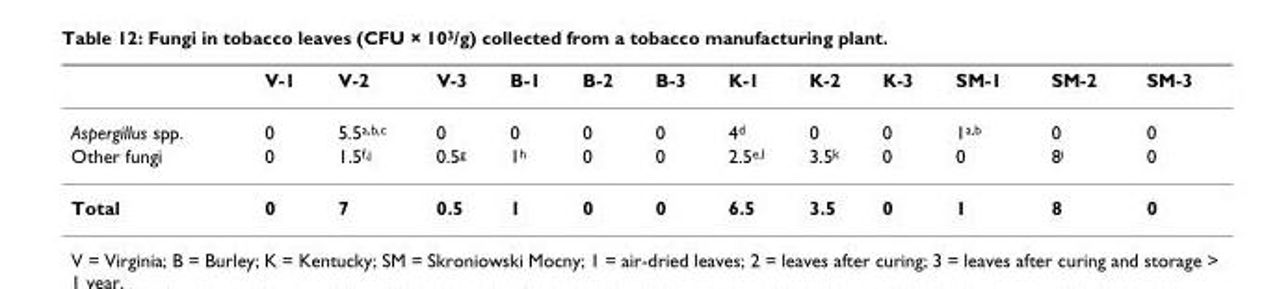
<table><thead><tr><td></td><td>V-1</td><td>V-2</td><td>V-3</td><td>B-1</td><td>B-2</td><td>B-3</td><td>K-1</td><td>K-2</td><td>K-3</td><td>SM-1</td><td>SM-2</td><td>SM-3</td></tr></thead><tbody><tr><td>Aspergillus spp.</td><td>0</td><td>5.5a,b,c</td><td>0</td><td>0</td><td>0</td><td>0</td><td>4d</td><td>0</td><td>0</td><td>1a,b</td><td>0</td><td>0</td></tr><tr><td>Other fungi</td><td>0</td><td>1.5f,j</td><td>0.5g</td><td>1h</td><td>0</td><td>0</td><td>2.5e,l</td><td>3.5k</td><td>0</td><td>0</td><td>8i</td><td>0</td></tr><tr><td>Total</td><td>0</td><td>7</td><td>0.5</td><td>1</td><td>0</td><td>0</td><td>6.5</td><td>3.5</td><td>0</td><td>1</td><td>8</td><td>0</td></tr></tbody></table>